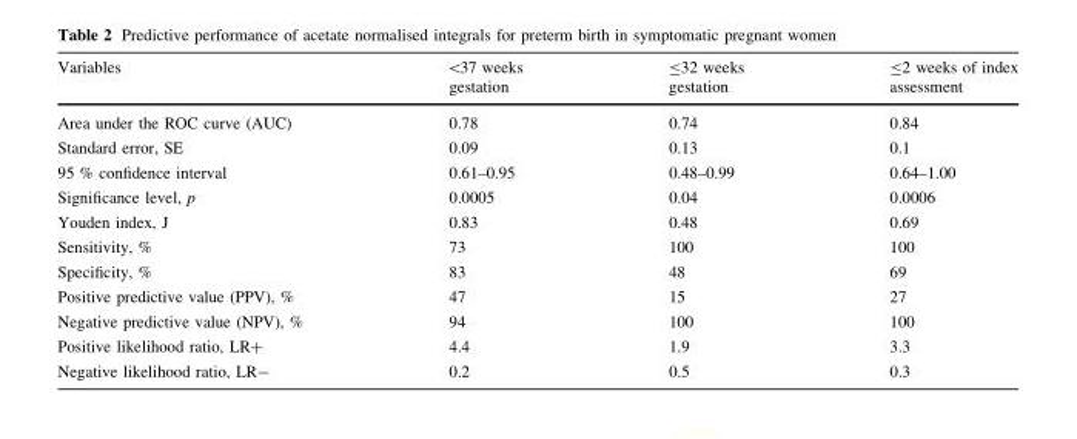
<table><thead><tr><td>Variables</td><td>&lt;37 weeks gestation</td><td>≤32 weeks gestation</td><td>≤2 weeks of index assessment</td></tr></thead><tbody><tr><td>Area under the ROC curve (AUC)</td><td>0.78</td><td>0.74</td><td>0.84</td></tr><tr><td>Standard error, SE</td><td>0.09</td><td>0.13</td><td>0.1</td></tr><tr><td>95 % confidence interval</td><td>0.61–0.95</td><td>0.48–0.99</td><td>0.64–1.00</td></tr><tr><td>Significance level, p</td><td>0.0005</td><td>0.04</td><td>0.0006</td></tr><tr><td>Youden index, J</td><td>0.83</td><td>0.48</td><td>0.69</td></tr><tr><td>Sensitivity, %</td><td>73</td><td>100</td><td>100</td></tr><tr><td>Specificity, %</td><td>83</td><td>48</td><td>69</td></tr><tr><td>Positive predictive value (PPV), %</td><td>47</td><td>15</td><td>27</td></tr><tr><td>Negative predictive value (NPV), %</td><td>94</td><td>100</td><td>100</td></tr><tr><td>Positive likelihood ratio, LR+</td><td>4.4</td><td>1.9</td><td>3.3</td></tr><tr><td>Negative likelihood ratio, LR-</td><td>0.2</td><td>0.5</td><td>0.3</td></tr></tbody></table>